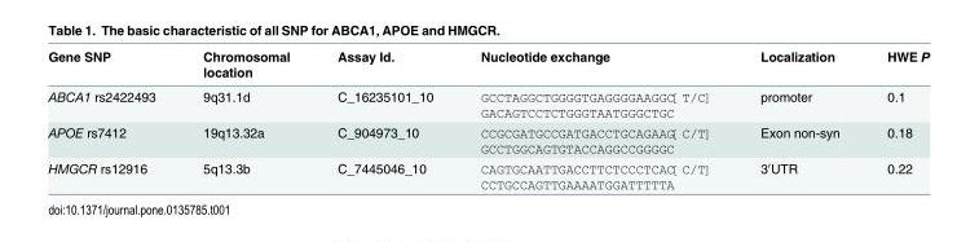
<table><thead><tr><td>Gene SNP</td><td>Chromosomal location</td><td>Assay Id.</td><td>Nucleotide exchange</td><td>Localization</td><td>HWE P</td></tr></thead><tbody><tr><td>ABCA1 rs2422493</td><td>9q31.1d</td><td>C_16235101_10</td><td>GCCTAGGCTGGGGTGAGGGGAAGGC[T/C] GACAGTCCTCTGGGTAATGGGCTGC</td><td>promoter</td><td>0.1</td></tr><tr><td>APOE rs7412</td><td>19q13.32a</td><td>C_904973_10</td><td>CCGCGATGCCGATGACCTGCAGAAG[C/T] GCCTGGCAGTGTACCAGGCCGGGGC</td><td>Exon non-syn</td><td>0.18</td></tr><tr><td>HMGCR rs12916</td><td>5q13.3b</td><td>C_7445046_10</td><td>CAGTGCAATTGACCTTCTCCCTCAC[C/T] CCTGCCAGTTGAAAATGGATTTTTA</td><td>3ˊUTR</td><td>0.22</td></tr></tbody></table>